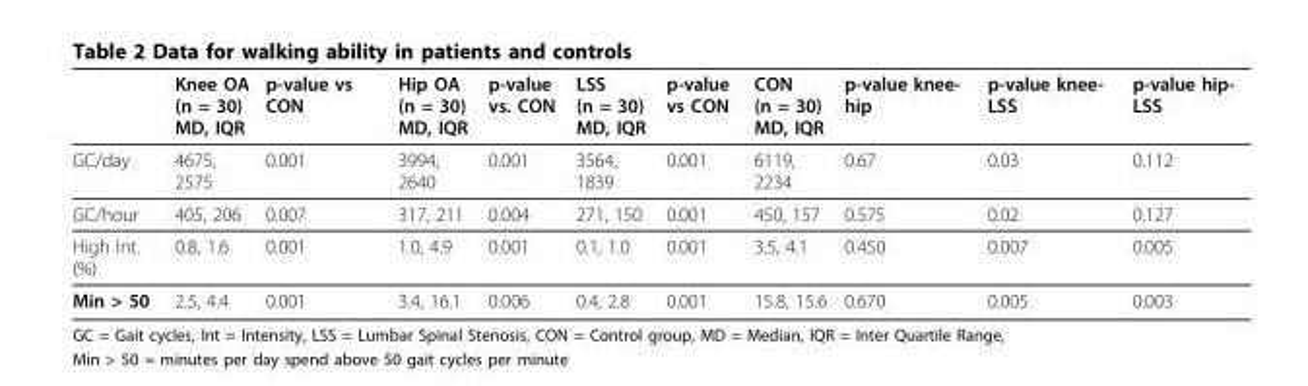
<table><thead><tr><td></td><td>Knee OA (n = 30) MD, IQR</td><td>p-value vs CON</td><td>Hip OA (n = 30) MD, IQR</td><td>p-value vs. CON</td><td>LSS (n = 30) MD, IQR</td><td>p-value vs CON</td><td>CON (n = 30) MD, IQR</td><td>p-value knee- hip</td><td>p-value knee- LSS</td><td>p-value hip- LSS</td></tr></thead><tbody><tr><td>GC/day</td><td>4675, 2575</td><td>0.001</td><td>3994, 2640</td><td>0.001</td><td>3564, 1839</td><td>0.001</td><td>6119, 2234</td><td>0.67</td><td>0.03</td><td>0.112</td></tr><tr><td>GC/hour</td><td>405, 206</td><td>0.007</td><td>317, 211</td><td>0.004</td><td>271, 150</td><td>0.001</td><td>450, 157</td><td>0.575</td><td>0.02</td><td>0.127</td></tr><tr><td>High Int. (%)</td><td>0.8, 1.6</td><td>0.001</td><td>1.0, 4.9</td><td>0.001</td><td>0.1, 1.0</td><td>0.001</td><td>3.5, 4.1</td><td>0.450</td><td>0.007</td><td>0.005</td></tr><tr><td>Min &gt; 50</td><td>2.5, 4.4</td><td>0.001</td><td>3.4, 16.1</td><td>0.006</td><td>0.4, 2.8</td><td>0.001</td><td>15.8, 15.6</td><td>0.670</td><td>0.005</td><td>0.003</td></tr></tbody></table>